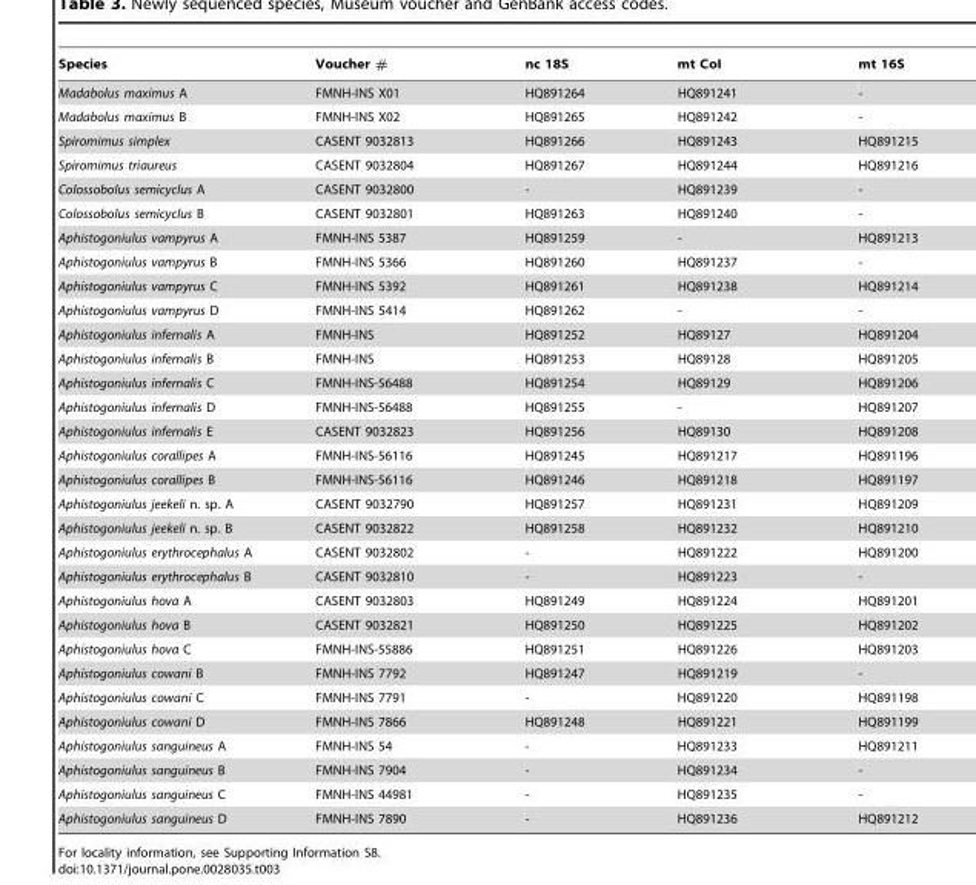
<table><thead><tr><td>Species</td><td>Voucher #</td><td>nc 18S</td><td>mt CoI</td><td>mt 16S</td></tr></thead><tbody><tr><td>Madabolus maximus A</td><td>FMNH-INS X01</td><td>HQ891264</td><td>HQ891241</td><td>-</td></tr><tr><td>Madabolus maximus B</td><td>FMNH-INS X02</td><td>HQ891265</td><td>HQ891242</td><td>-</td></tr><tr><td>Spiromimus simplex</td><td>CASENT 9032813</td><td>HQ891266</td><td>HQ891243</td><td>HQ891215</td></tr><tr><td>Spiromimus triaureus</td><td>CASENT 9032804</td><td>HQ891267</td><td>HQ891244</td><td>HQ891216</td></tr><tr><td>Colossobolus semicyclus A</td><td>CASENT 9032800</td><td>-</td><td>HQ891239</td><td>-</td></tr><tr><td>Colossobolus semicyclus B</td><td>CASENT 9032801</td><td>HQ891263</td><td>HQ891240</td><td>-</td></tr><tr><td>Aphistogoniulus vampyrus A</td><td>FMNH-INS 5387</td><td>HQ891259</td><td>-</td><td>HQ891213</td></tr><tr><td>Aphistogoniulus vampyrus B</td><td>FMNH-INS 5366</td><td>HQ891260</td><td>HQ891237</td><td>-</td></tr><tr><td>Aphistogoniulus vampyrus C</td><td>FMNH-INS 5392</td><td>HQ891261</td><td>HQ891238</td><td>HQ891214</td></tr><tr><td>Aphistogoniulus vampyrus D</td><td>FMNH-INS 5414</td><td>HQ891262</td><td>-</td><td>-</td></tr><tr><td>Aphistogoniulus infernalis A</td><td>FMNH-INS</td><td>HQ891252</td><td>HQ89127</td><td>HQ891204</td></tr><tr><td>Aphistogoniulus infernalis B</td><td>FMNH-INS</td><td>HQ891253</td><td>HQ89128</td><td>HQ891205</td></tr><tr><td>Aphistogoniulus infernalis C</td><td>FMNH-INS-56488</td><td>HQ891254</td><td>HQ89129</td><td>HQ891206</td></tr><tr><td>Aphistogoniulus infernalis D</td><td>FMNH-INS-56488</td><td>HQ891255</td><td>-</td><td>HQ891207</td></tr><tr><td>Aphistogoniulus infernalis E</td><td>CASENT 9032823</td><td>HQ891256</td><td>HQ89130</td><td>HQ891208</td></tr><tr><td>Aphistogoniulus corallipes A</td><td>FMNH-INS-56116</td><td>HQ891245</td><td>HQ891217</td><td>HQ891196</td></tr><tr><td>Aphistogoniulus corallipes B</td><td>FMNH-INS-56116</td><td>HQ891246</td><td>HQ891218</td><td>HQ891197</td></tr><tr><td>Aphistogoniulus jeekeli n. sp. A</td><td>CASENT 9032790</td><td>HQ891257</td><td>HQ891231</td><td>HQ891209</td></tr><tr><td>Aphistogoniulus jeekeli n. sp. B</td><td>CASENT 9032822</td><td>HQ891258</td><td>HQ891232</td><td>HQ891210</td></tr><tr><td>Aphistogoniulus erythrocephalus A</td><td>CASENT 9032802</td><td>-</td><td>HQ891222</td><td>HQ891200</td></tr><tr><td>Aphistogoniulus erythrocephalus B</td><td>CASENT 9032810</td><td>-</td><td>HQ891223</td><td>-</td></tr><tr><td>Aphistogoniulus hova A</td><td>CASENT 9032803</td><td>HQ891249</td><td>HQ891224</td><td>HQ891201</td></tr><tr><td>Aphistogoniulus hova B</td><td>CASENT 9032821</td><td>HQ891250</td><td>HQ891225</td><td>HQ891202</td></tr><tr><td>Aphistogoniulus hova C</td><td>FMNH-INS-55886</td><td>HQ891251</td><td>HQ891226</td><td>HQ891203</td></tr><tr><td>Aphistogoniulus cowani B</td><td>FMNH-INS 7792</td><td>HQ891247</td><td>HQ891219</td><td>-</td></tr><tr><td>Aphistogoniulus cowani C</td><td>FMNH-INS 7791</td><td>-</td><td>HQ891220</td><td>HQ891198</td></tr><tr><td>Aphistogoniulus cowani D</td><td>FMNH-INS 7866</td><td>HQ891248</td><td>HQ891221</td><td>HQ891199</td></tr><tr><td>Aphistogoniulus sanguineus A</td><td>FMNH-INS 54</td><td>-</td><td>HQ891233</td><td>HQ891211</td></tr><tr><td>Aphistogoniulus sanguineus B</td><td>FMNH-INS 7904</td><td>-</td><td>HQ891234</td><td>-</td></tr><tr><td>Aphistogoniulus sanguineus C</td><td>FMNH-INS 44981</td><td>-</td><td>HQ891235</td><td>-</td></tr><tr><td>Aphistogoniulus sanguineus D</td><td>FMNH-INS 7890</td><td>-</td><td>HQ891236</td><td>HQ891212</td></tr></tbody></table>